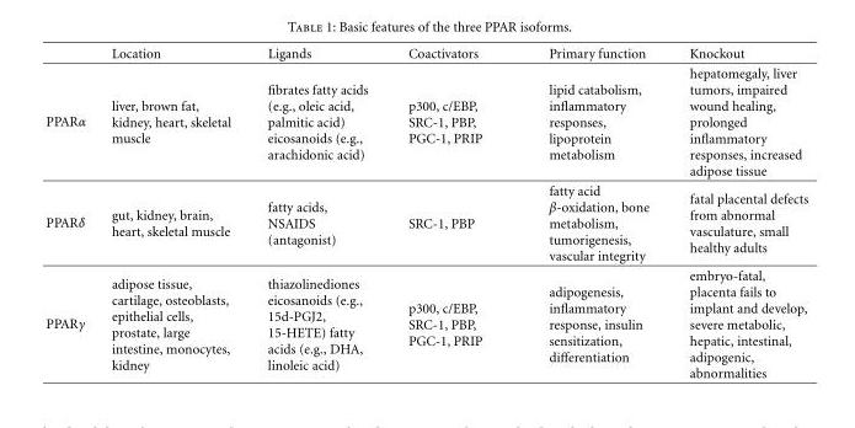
<table><thead><tr><td></td><td>Location</td><td>Ligands</td><td>Coactivators</td><td>Primary function</td><td>Knockout</td></tr></thead><tbody><tr><td>PPARα</td><td>liver, brown fat, kidney, heart, skeletal muscle</td><td>fibrates fatty acids (e.g., oleic acid, palmitic acid) eicosanoids (e.g., arachidonic acid)</td><td>p300, c/EBP, SRC-1, PBP, PGC-1, PRIP</td><td>lipid catabolism, inflammatory responses, lipoprotein metabolism</td><td>hepatomegaly, liver tumors, impaired wound healing, prolonged inflammatory responses, increased adipose tissue</td></tr><tr><td>PPARδ</td><td>gut, kidney, brain, heart, skeletal muscle</td><td>fatty acids, NSAIDS (antagonist)</td><td>SRC-1, PBP</td><td>fatty acid β-oxidation, bone metabolism, tumorigenesis, vascular integrity</td><td>fatal placental defects from abnormal vasculature, small healthy adults</td></tr><tr><td>PPARγ</td><td>adipose tissue, cartilage, osteoblasts, epithelial cells, prostate, large intestine, monocytes, kidney</td><td>thiazolinediones eicosanoids (e.g., 15d-PGJ2, 15-HETE) fatty acids (e.g., DHA, linoleic acid)</td><td>p300, c/EBP, SRC-1, PBP, PGC-1, PRIP</td><td>adipogenesis, inflammatory response, insulin sensitization, differentiation</td><td>embryo-fatal, placenta fails to implant and develop, severe metabolic, hepatic, intestinal, adipogenic, abnormalities</td></tr></tbody></table>